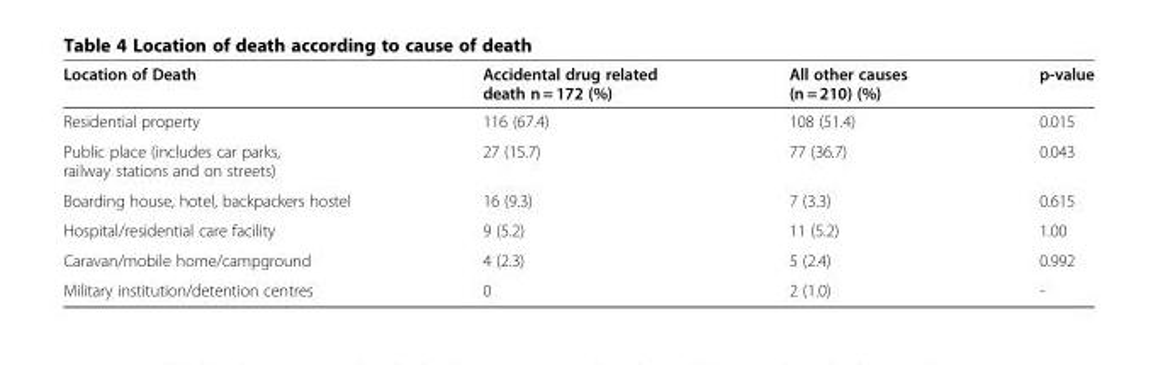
<table><thead><tr><td>Location of Death</td><td>Accidental drug related death n = 172 (%)</td><td>All other causes (n = 210) (%)</td><td>p-value</td></tr></thead><tbody><tr><td>Residential property</td><td>116 (67.4)</td><td>108 (51.4)</td><td>0.015</td></tr><tr><td>Public place (includes car parks, railway stations and on streets)</td><td>27 (15.7)</td><td>77 (36.7)</td><td>0.043</td></tr><tr><td>Boarding house, hotel, backpackers hostel</td><td>16 (9.3)</td><td>7 (3.3)</td><td>0.615</td></tr><tr><td>Hospital/residential care facility</td><td>9 (5.2)</td><td>11 (5.2)</td><td>1.00</td></tr><tr><td>Caravan/mobile home/campground</td><td>4 (2.3)</td><td>5 (2.4)</td><td>0.992</td></tr><tr><td>Military institution/detention centres</td><td>0</td><td>2 (1.0)</td><td>-</td></tr></tbody></table>